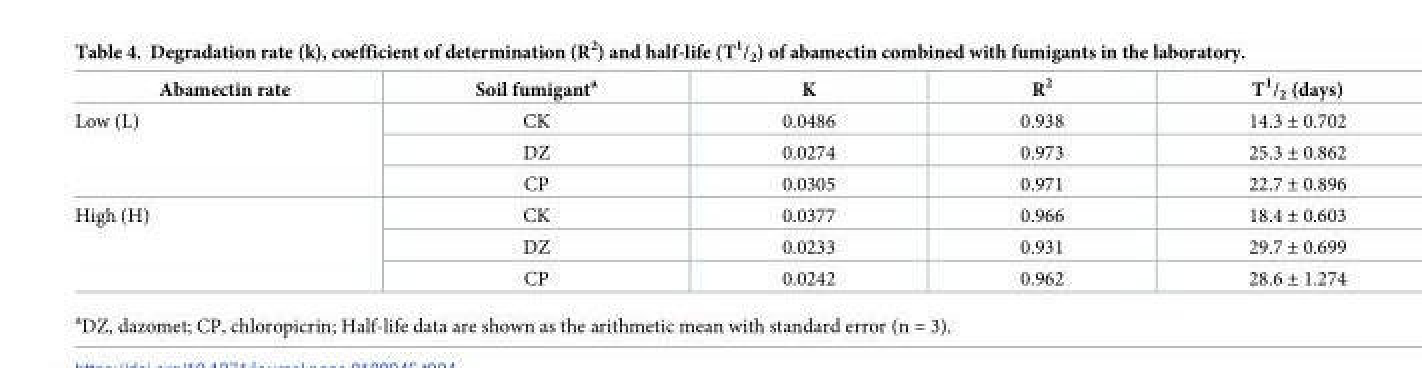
<table><thead><tr><td>Abamectin rate</td><td>Soil fumigant<sup>a</sup></td><td>K</td><td>R<sup>2</sup></td><td>T<sup>1</sup>/<sub>2</sub> (days)</td></tr></thead><tbody><tr><td rowspan="3">Low (L)</td><td>CK</td><td>0.0486</td><td>0.938</td><td>14.3 ± 0.702</td></tr><tr><td>DZ</td><td>0.0274</td><td>0.973</td><td>25.3 ± 0.862</td></tr><tr><td>CP</td><td>0.0305</td><td>0.971</td><td>22.7 ± 0.896</td></tr><tr><td rowspan="3">High (H)</td><td>CK</td><td>0.0377</td><td>0.966</td><td>18.4 ± 0.603</td></tr><tr><td>DZ</td><td>0.0233</td><td>0.931</td><td>29.7 ± 0.699</td></tr><tr><td>CP</td><td>0.0242</td><td>0.962</td><td>28.6 ± 1.274</td></tr></tbody></table>